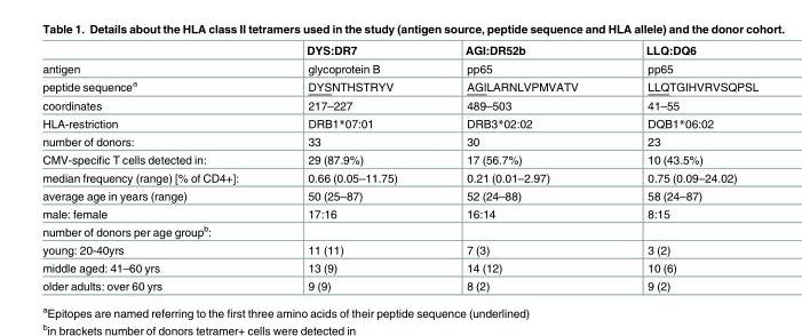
<table><thead><tr><td></td><td>DYS:DR7</td><td>AGI:DR52b</td><td>LLQ:DQ6</td></tr></thead><tbody><tr><td>antigen</td><td>glycoprotein B</td><td>pp65</td><td>pp65</td></tr><tr><td>peptide sequence<sup>a</sup></td><td>DYSNTHSTRYV</td><td>AGILARNLVPMVATV</td><td>LLQTGIHVRVSQPSL</td></tr><tr><td>coordinates</td><td>217–227</td><td>489–503</td><td>41–55</td></tr><tr><td>HLA-restriction</td><td>DRB1*07:01</td><td>DRB3*02:02</td><td>DQB1*06:02</td></tr><tr><td>number of donors:</td><td>33</td><td>30</td><td>23</td></tr><tr><td>CMV-specific T cells detected in:</td><td>29 (87.9%)</td><td>17 (56.7%)</td><td>10 (43.5%)</td></tr><tr><td>median frequency (range) [% of CD4+]:</td><td>0.66 (0.05–11.75)</td><td>0.21 (0.01–2.97)</td><td>0.75 (0.09–24.02)</td></tr><tr><td>average age in years (range)</td><td>50 (25–87)</td><td>52 (24–88)</td><td>58 (24–87)</td></tr><tr><td>male: female</td><td>17:16</td><td>16:14</td><td>8:15</td></tr><tr><td colspan="4">number of donors per age group<sup>b</sup>:</td></tr><tr><td>young: 20-40yrs</td><td>11 (11)</td><td>7 (3)</td><td>3 (2)</td></tr><tr><td>middle aged: 41–60 yrs</td><td>13 (9)</td><td>14 (12)</td><td>10 (6)</td></tr><tr><td>older adults: over 60 yrs</td><td>9 (9)</td><td>8 (2)</td><td>9 (2)</td></tr></tbody></table>